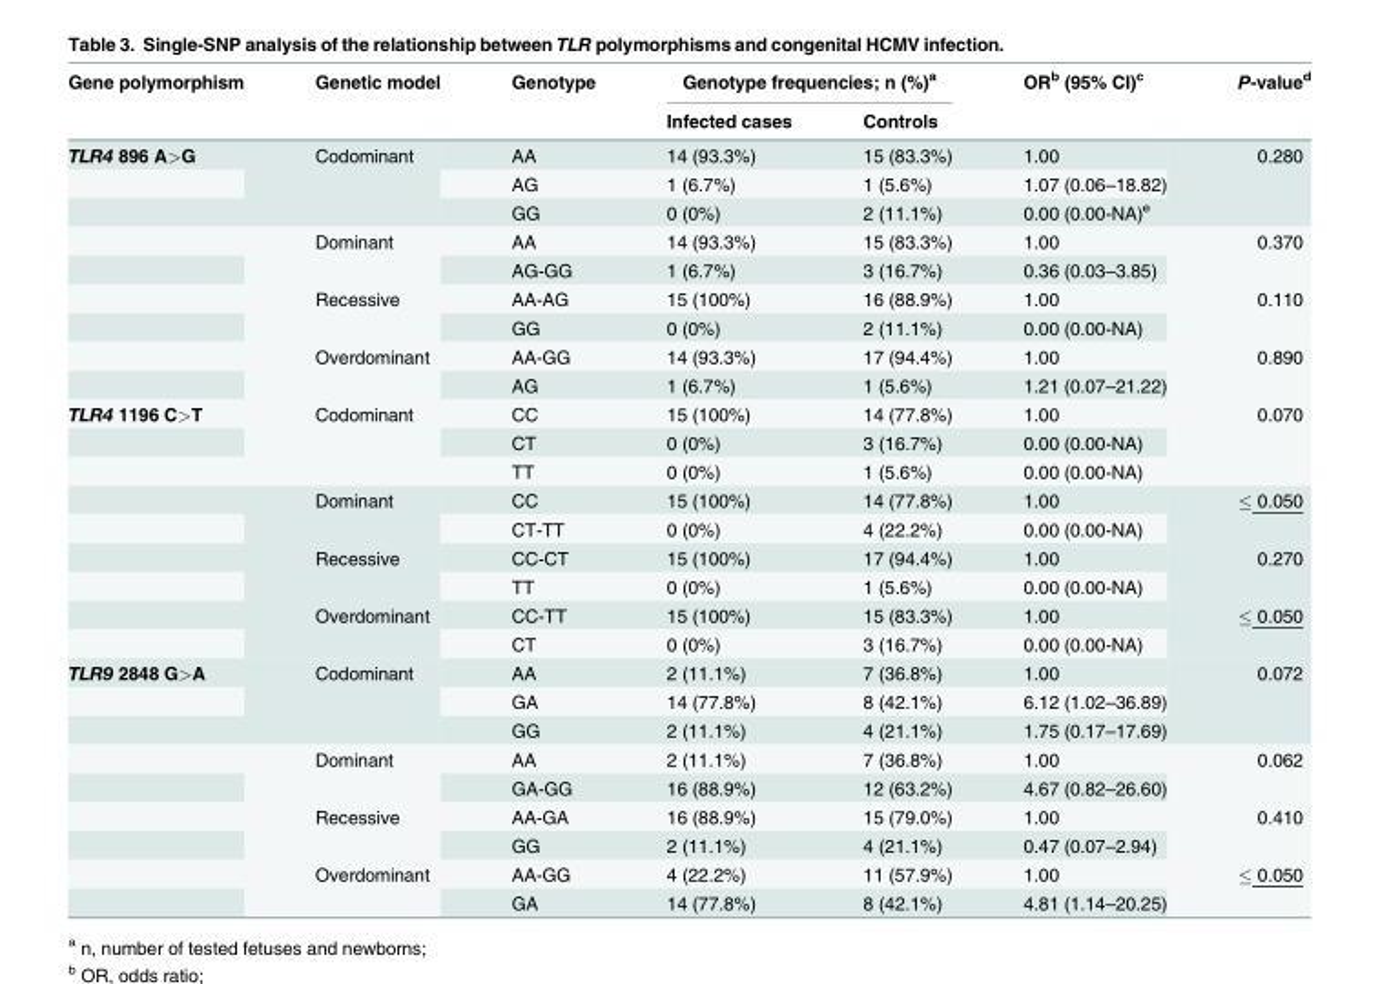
<table><thead><tr><td rowspan="2">Gene polymorphism</td><td rowspan="2">Genetic model</td><td rowspan="2">Genotype</td><td colspan="2">Genotype frequencies; n (%)<sup>a</sup></td><td rowspan="2">OR<sup>b</sup> (95% CI)<sup>c</sup></td><td rowspan="2">P-value<sup>d</sup></td></tr><tr><td>Infected cases</td><td>Controls</td></tr></thead><tbody><tr><td rowspan="9">TLR4 896 A&gt;G</td><td rowspan="3">Codominant</td><td>AA</td><td>14 (93.3%)</td><td>15 (83.3%)</td><td>1.00</td><td rowspan="3">0.280</td></tr><tr><td>AG</td><td>1 (6.7%)</td><td>1 (5.6%)</td><td>1.07 (0.06–18.82)</td></tr><tr><td>GG</td><td>0 (0%)</td><td>2 (11.1%)</td><td>0.00 (0.00-NA)<sup>e</sup></td></tr><tr><td rowspan="2">Dominant</td><td>AA</td><td>14 (93.3%)</td><td>15 (83.3%)</td><td>1.00</td><td rowspan="2">0.370</td></tr><tr><td>AG-GG</td><td>1 (6.7%)</td><td>3 (16.7%)</td><td>0.36 (0.03–3.85)</td></tr><tr><td rowspan="2">Recessive</td><td>AA-AG</td><td>15 (100%)</td><td>16 (88.9%)</td><td>1.00</td><td rowspan="2">0.110</td></tr><tr><td>GG</td><td>0 (0%)</td><td>2 (11.1%)</td><td>0.00 (0.00-NA)</td></tr><tr><td rowspan="2">Overdominant</td><td>AA-GG</td><td>14 (93.3%)</td><td>17 (94.4%)</td><td>1.00</td><td rowspan="2">0.890</td></tr><tr><td>AG</td><td>1 (6.7%)</td><td>1 (5.6%)</td><td>1.21 (0.07–21.22)</td></tr><tr><td rowspan="9">TLR4 1196 C&gt;T</td><td rowspan="3">Codominant</td><td>CC</td><td>15 (100%)</td><td>14 (77.8%)</td><td>1.00</td><td rowspan="3">0.070</td></tr><tr><td>CT</td><td>0 (0%)</td><td>3 (16.7%)</td><td>0.00 (0.00-NA)</td></tr><tr><td>TT</td><td>0 (0%)</td><td>1 (5.6%)</td><td>0.00 (0.00-NA)</td></tr><tr><td rowspan="2">Dominant</td><td>CC</td><td>15 (100%)</td><td>14 (77.8%)</td><td>1.00</td><td rowspan="2">≤ 0.050</td></tr><tr><td>CT-TT</td><td>0 (0%)</td><td>4 (22.2%)</td><td>0.00 (0.00-NA)</td></tr><tr><td rowspan="2">Recessive</td><td>CC-CT</td><td>15 (100%)</td><td>17 (94.4%)</td><td>1.00</td><td rowspan="2">0.270</td></tr><tr><td>TT</td><td>0 (0%)</td><td>1 (5.6%)</td><td>0.00 (0.00-NA)</td></tr><tr><td rowspan="2">Overdominant</td><td>CC-TT</td><td>15 (100%)</td><td>15 (83.3%)</td><td>1.00</td><td rowspan="2">≤ 0.050</td></tr><tr><td>CT</td><td>0 (0%)</td><td>3 (16.7%)</td><td>0.00 (0.00-NA)</td></tr><tr><td rowspan="9">TLR9 2848 G&gt;A</td><td rowspan="3">Codominant</td><td>AA</td><td>2 (11.1%)</td><td>7 (36.8%)</td><td>1.00</td><td rowspan="3">0.072</td></tr><tr><td>GA</td><td>14 (77.8%)</td><td>8 (42.1%)</td><td>6.12 (1.02–36.89)</td></tr><tr><td>GG</td><td>2 (11.1%)</td><td>4 (21.1%)</td><td>1.75 (0.17–17.69)</td></tr><tr><td rowspan="2">Dominant</td><td>AA</td><td>2 (11.1%)</td><td>7 (36.8%)</td><td>1.00</td><td rowspan="2">0.062</td></tr><tr><td>GA-GG</td><td>16 (88.9%)</td><td>12 (63.2%)</td><td>4.67 (0.82–26.60)</td></tr><tr><td rowspan="2">Recessive</td><td>AA-GA</td><td>16 (88.9%)</td><td>15 (79.0%)</td><td>1.00</td><td rowspan="2">0.410</td></tr><tr><td>GG</td><td>2 (11.1%)</td><td>4 (21.1%)</td><td>0.47 (0.07–2.94)</td></tr><tr><td rowspan="2">Overdominant</td><td>AA-GG</td><td>4 (22.2%)</td><td>11 (57.9%)</td><td>1.00</td><td rowspan="2">≤ 0.050</td></tr><tr><td>GA</td><td>14 (77.8%)</td><td>8 (42.1%)</td><td>4.81 (1.14–20.25)</td></tr></tbody></table>